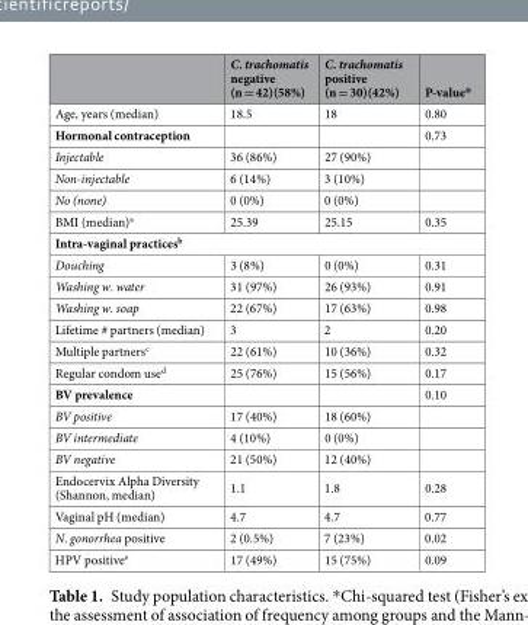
<table><thead><tr><td></td><td>C. trachomatis negative (n = 42)(58%)</td><td>C. trachomatis positive (n = 30)(42%)</td><td>P-value*</td></tr></thead><tbody><tr><td>Age, years (median)</td><td>18.5</td><td>18</td><td>0.80</td></tr><tr><td>Hormonal contraception</td><td></td><td></td><td>0.73</td></tr><tr><td>Injectable</td><td>36 (86%)</td><td>27 (90%)</td><td></td></tr><tr><td>Non-injectable</td><td>6 (14%)</td><td>3 (10%)</td><td></td></tr><tr><td>No (none)</td><td>0 (0%)</td><td>0 (0%)</td><td></td></tr><tr><td>BMI (median)<sup>a</sup></td><td>25.39</td><td>25.15</td><td>0.35</td></tr><tr><td colspan="4">Intra-vaginal practices<sup>b</sup></td></tr><tr><td>Douching</td><td>3 (8%)</td><td>0 (0%)</td><td>0.31</td></tr><tr><td>Washing w. water</td><td>31 (97%)</td><td>26 (93%)</td><td>0.91</td></tr><tr><td>Washing w. soap</td><td>22 (67%)</td><td>17 (63%)</td><td>0.98</td></tr><tr><td>Lifetime # partners (median)</td><td>3</td><td>2</td><td>0.20</td></tr><tr><td>Multiple partners<sup>c</sup></td><td>22 (61%)</td><td>10 (36%)</td><td>0.32</td></tr><tr><td>Regular condom use<sup>d</sup></td><td>25 (76%)</td><td>15 (56%)</td><td>0.17</td></tr><tr><td>BV prevalence</td><td></td><td></td><td>0.10</td></tr><tr><td>BV positive</td><td>17 (40%)</td><td>18 (60%)</td><td></td></tr><tr><td>BV intermediate</td><td>4 (10%)</td><td>0 (0%)</td><td></td></tr><tr><td>BV negative</td><td>21 (50%)</td><td>12 (40%)</td><td></td></tr><tr><td>Endocervix Alpha Diversity (Shannon, median)</td><td>1.1</td><td>1.8</td><td>0.28</td></tr><tr><td>Vaginal pH (median)</td><td>4.7</td><td>4.7</td><td>0.77</td></tr><tr><td>N. gonorrhea positive</td><td>2 (0.5%)</td><td>7 (23%)</td><td>0.02</td></tr><tr><td>HPV positive<sup>e</sup></td><td>17 (49%)</td><td>15 (75%)</td><td>0.09</td></tr></tbody></table>